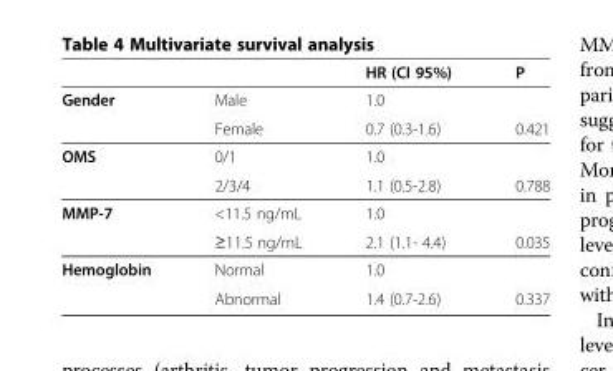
<table><thead><tr><td></td><td></td><td>HR (CI 95%)</td><td>P</td></tr></thead><tbody><tr><td rowspan="2">Gender</td><td>Male</td><td>1.0</td><td></td></tr><tr><td>Female</td><td>0.7 (0.3-1.6)</td><td>0.421</td></tr><tr><td rowspan="2">OMS</td><td>0/1</td><td>1.0</td><td></td></tr><tr><td>2/3/4</td><td>1.1 (0.5-2.8)</td><td>0.788</td></tr><tr><td rowspan="2">MMP-7</td><td>&lt;11.5 ng/mL</td><td>1.0</td><td></td></tr><tr><td>≥11.5 ng/mL</td><td>2.1 (1.1- 4.4)</td><td>0.035</td></tr><tr><td rowspan="2">Hemoglobin</td><td>Normal</td><td>1.0</td><td></td></tr><tr><td>Abnormal</td><td>1.4 (0.7-2.6)</td><td>0.337</td></tr></tbody></table>